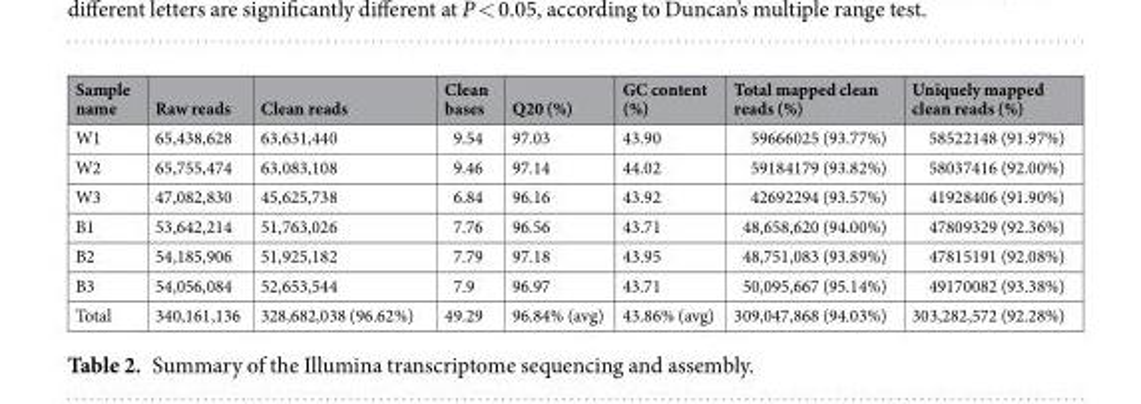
<table><thead><tr><td>Sample name</td><td>Raw reads</td><td>Clean reads</td><td>Clean bases</td><td>Q20 (%)</td><td>GC content (%)</td><td>Total mapped clean reads (%)</td><td>Uniquely mapped clean reads (%)</td></tr></thead><tbody><tr><td>W1</td><td>65,438,628</td><td>63,631,440</td><td>9.54</td><td>97.03</td><td>43.90</td><td>59666025 (93.77%)</td><td>58522148 (91.97%)</td></tr><tr><td>W2</td><td>65,755,474</td><td>63,083,108</td><td>9.46</td><td>97.14</td><td>44.02</td><td>59184179 (93.82%)</td><td>58037416 (92.00%)</td></tr><tr><td>W3</td><td>47,082,830</td><td>45,625,738</td><td>6.84</td><td>96.16</td><td>43.92</td><td>42692294 (93.57%)</td><td>41928406 (91.90%)</td></tr><tr><td>B1</td><td>53,642,214</td><td>51,763,026</td><td>7.76</td><td>96.56</td><td>43.71</td><td>48,658,620 (94.00%)</td><td>47809329 (92.36%)</td></tr><tr><td>B2</td><td>54,185,906</td><td>51,925,182</td><td>7.79</td><td>97.18</td><td>43.95</td><td>48,751,083 (93.89%)</td><td>47815191 (92.08%)</td></tr><tr><td>B3</td><td>54,056,084</td><td>52,653,544</td><td>7.9</td><td>96.97</td><td>43.71</td><td>50,095,667 (95.14%)</td><td>49170082 (93.38%)</td></tr><tr><td>Total</td><td>340,161,136</td><td>328,682,038 (96.62%)</td><td>49.29</td><td>96.84% (avg)</td><td>43.86% (avg)</td><td>309,047,868 (94.03%)</td><td>303,282,572 (92.28%)</td></tr></tbody></table>